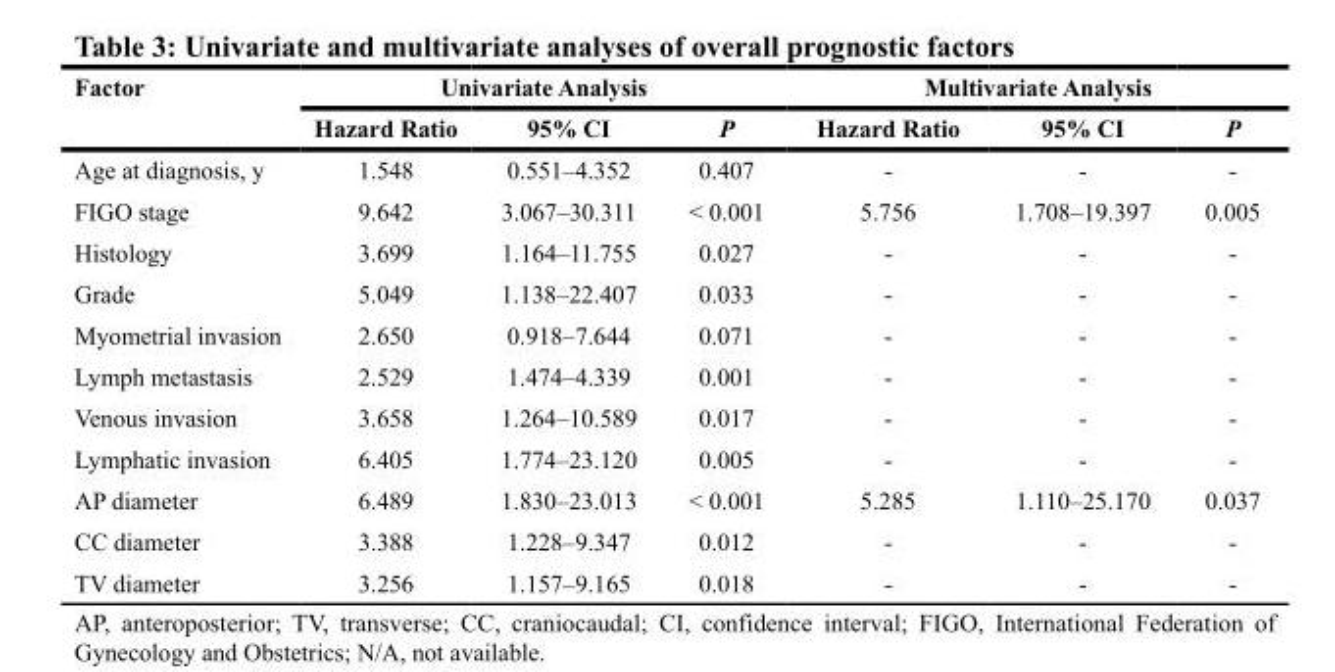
<table><thead><tr><td rowspan="2">Factor</td><td colspan="3">Univariate Analysis</td><td colspan="3">Multivariate Analysis</td></tr><tr><td>Hazard Ratio</td><td>95% CI</td><td>P</td><td>Hazard Ratio</td><td>95% CI</td><td>P</td></tr></thead><tbody><tr><td>Age at diagnosis, y</td><td>1.548</td><td>0.551–4.352</td><td>0.407</td><td>-</td><td>-</td><td>-</td></tr><tr><td>FIGO stage</td><td>9.642</td><td>3.067–30.311</td><td>&lt; 0.001</td><td>5.756</td><td>1.708–19.397</td><td>0.005</td></tr><tr><td>Histology</td><td>3.699</td><td>1.164–11.755</td><td>0.027</td><td>-</td><td>-</td><td>-</td></tr><tr><td>Grade</td><td>5.049</td><td>1.138–22.407</td><td>0.033</td><td>-</td><td>-</td><td>-</td></tr><tr><td>Myometrial invasion</td><td>2.650</td><td>0.918–7.644</td><td>0.071</td><td>-</td><td>-</td><td>-</td></tr><tr><td>Lymph metastasis</td><td>2.529</td><td>1.474–4.339</td><td>0.001</td><td>-</td><td>-</td><td>-</td></tr><tr><td>Venous invasion</td><td>3.658</td><td>1.264–10.589</td><td>0.017</td><td>-</td><td>-</td><td>-</td></tr><tr><td>Lymphatic invasion</td><td>6.405</td><td>1.774–23.120</td><td>0.005</td><td>-</td><td>-</td><td>-</td></tr><tr><td>AP diameter</td><td>6.489</td><td>1.830–23.013</td><td>&lt; 0.001</td><td>5.285</td><td>1.110–25.170</td><td>0.037</td></tr><tr><td>CC diameter</td><td>3.388</td><td>1.228–9.347</td><td>0.012</td><td>-</td><td>-</td><td>-</td></tr><tr><td>TV diameter</td><td>3.256</td><td>1.157–9.165</td><td>0.018</td><td>-</td><td>-</td><td>-</td></tr></tbody></table>